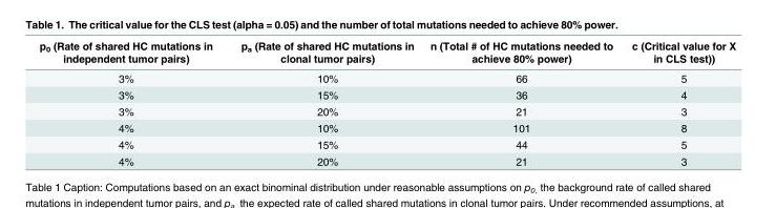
<table><thead><tr><td>p<sub>0</sub> (Rate of shared HC mutations in independent tumor pairs)</td><td>p<sub>a</sub> (Rate of shared HC mutations in clonal tumor pairs)</td><td>n (Total # of HC mutations needed to achieve 80% power)</td><td>c (Critical value for X in CLS test))</td></tr></thead><tbody><tr><td>3%</td><td>10%</td><td>66</td><td>5</td></tr><tr><td>3%</td><td>15%</td><td>36</td><td>4</td></tr><tr><td>3%</td><td>20%</td><td>21</td><td>3</td></tr><tr><td>4%</td><td>10%</td><td>101</td><td>8</td></tr><tr><td>4%</td><td>15%</td><td>44</td><td>5</td></tr><tr><td>4%</td><td>20%</td><td>21</td><td>3</td></tr></tbody></table>